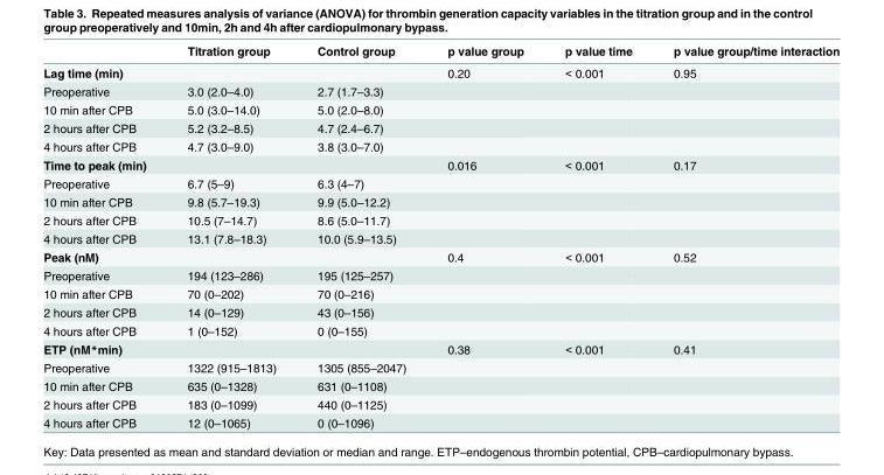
<table><thead><tr><td></td><td>Titration group</td><td>Control group</td><td>p value group</td><td>p value time</td><td>p value group/time interaction</td></tr></thead><tbody><tr><td>Lag time (min)</td><td></td><td></td><td>0.20</td><td>&lt; 0.001</td><td>0.95</td></tr><tr><td>Preoperative</td><td>3.0 (2.0–4.0)</td><td>2.7 (1.7–3.3)</td><td></td><td></td><td></td></tr><tr><td>10 min after CPB</td><td>5.0 (3.0–14.0)</td><td>5.0 (2.0–8.0)</td><td></td><td></td><td></td></tr><tr><td>2 hours after CPB</td><td>5.2 (3.2–8.5)</td><td>4.7 (2.4–6.7)</td><td></td><td></td><td></td></tr><tr><td>4 hours after CPB</td><td>4.7 (3.0–9.0)</td><td>3.8 (3.0–7.0)</td><td></td><td></td><td></td></tr><tr><td>Time to peak (min)</td><td></td><td></td><td>0.016</td><td>&lt; 0.001</td><td>0.17</td></tr><tr><td>Preoperative</td><td>6.7 (5–9)</td><td>6.3 (4–7)</td><td></td><td></td><td></td></tr><tr><td>10 min after CPB</td><td>9.8 (5.7–19.3)</td><td>9.9 (5.0–12.2)</td><td></td><td></td><td></td></tr><tr><td>2 hours after CPB</td><td>10.5 (7–14.7)</td><td>8.6 (5.0–11.7)</td><td></td><td></td><td></td></tr><tr><td>4 hours after CPB</td><td>13.1 (7.8–18.3)</td><td>10.0 (5.9–13.5)</td><td></td><td></td><td></td></tr><tr><td>Peak (nM)</td><td></td><td></td><td>0.4</td><td>&lt; 0.001</td><td>0.52</td></tr><tr><td>Preoperative</td><td>194 (123–286)</td><td>195 (125–257)</td><td></td><td></td><td></td></tr><tr><td>10 min after CPB</td><td>70 (0–202)</td><td>70 (0–216)</td><td></td><td></td><td></td></tr><tr><td>2 hours after CPB</td><td>14 (0–129)</td><td>43 (0–156)</td><td></td><td></td><td></td></tr><tr><td>4 hours after CPB</td><td>1 (0–152)</td><td>0 (0–155)</td><td></td><td></td><td></td></tr><tr><td>ETP (nM*min)</td><td></td><td></td><td>0.38</td><td>&lt; 0.001</td><td>0.41</td></tr><tr><td>Preoperative</td><td>1322 (915–1813)</td><td>1305 (855–2047)</td><td></td><td></td><td></td></tr><tr><td>10 min after CPB</td><td>635 (0–1328)</td><td>631 (0–1108)</td><td></td><td></td><td></td></tr><tr><td>2 hours after CPB</td><td>183 (0–1099)</td><td>440 (0–1125)</td><td></td><td></td><td></td></tr><tr><td>4 hours after CPB</td><td>12 (0–1065)</td><td>0 (0–1096)</td><td></td><td></td><td></td></tr></tbody></table>